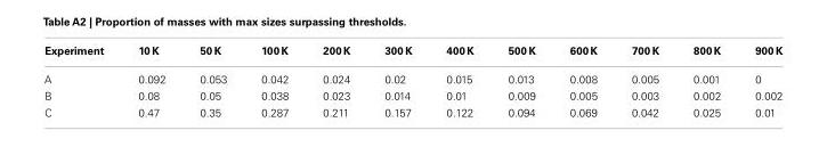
<table><thead><tr><td>Experiment</td><td>10 K</td><td>50 K</td><td>100 K</td><td>200 K</td><td>300 K</td><td>400 K</td><td>500 K</td><td>600 K</td><td>700 K</td><td>800 K</td><td>900 K</td></tr></thead><tbody><tr><td>A</td><td>0.092</td><td>0.053</td><td>0.042</td><td>0.024</td><td>0.02</td><td>0.015</td><td>0.013</td><td>0.008</td><td>0.005</td><td>0.001</td><td>0</td></tr><tr><td>B</td><td>0.08</td><td>0.05</td><td>0.038</td><td>0.023</td><td>0.014</td><td>0.01</td><td>0.009</td><td>0.005</td><td>0.003</td><td>0.002</td><td>0.002</td></tr><tr><td>C</td><td>0.47</td><td>0.35</td><td>0.287</td><td>0.211</td><td>0.157</td><td>0.122</td><td>0.094</td><td>0.069</td><td>0.042</td><td>0.025</td><td>0.01</td></tr></tbody></table>